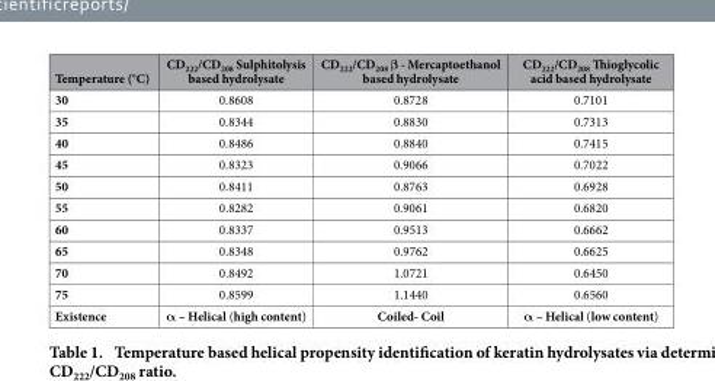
<table><thead><tr><td>Temperature (°C)</td><td>CD<sub>222</sub>/CD<sub>208</sub> Sulphitolysis based hydrolysate</td><td>CD<sub>222</sub>/CD<sub>208</sub> β - Mercaptoethanol based hydrolysate</td><td>CD<sub>222</sub>/CD<sub>208</sub> Thioglycolic acid based hydrolysate</td></tr></thead><tbody><tr><td>30</td><td>0.8608</td><td>0.8728</td><td>0.7101</td></tr><tr><td>35</td><td>0.8344</td><td>0.8830</td><td>0.7313</td></tr><tr><td>40</td><td>0.8486</td><td>0.8840</td><td>0.7415</td></tr><tr><td>45</td><td>0.8323</td><td>0.9066</td><td>0.7022</td></tr><tr><td>50</td><td>0.8411</td><td>0.8763</td><td>0.6928</td></tr><tr><td>55</td><td>0.8282</td><td>0.9061</td><td>0.6820</td></tr><tr><td>60</td><td>0.8337</td><td>0.9513</td><td>0.6662</td></tr><tr><td>65</td><td>0.8348</td><td>0.9762</td><td>0.6625</td></tr><tr><td>70</td><td>0.8492</td><td>1.0721</td><td>0.6450</td></tr><tr><td>75</td><td>0.8599</td><td>1.1440</td><td>0.6560</td></tr><tr><td>Existence</td><td>α – Helical (high content)</td><td>Coiled- Coil</td><td>α – Helical (low content)</td></tr></tbody></table>